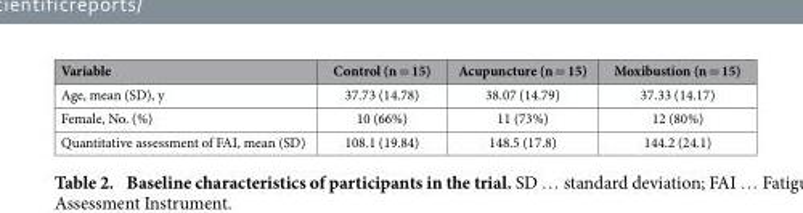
<table><thead><tr><td>Variable</td><td>Control (n = 15)</td><td>Acupuncture (n = 15)</td><td>Moxibustion (n = 15)</td></tr></thead><tbody><tr><td>Age, mean (SD), y</td><td>37.73 (14.78)</td><td>38.07 (14.79)</td><td>37.33 (14.17)</td></tr><tr><td>Female, No. (%)</td><td>10 (66%)</td><td>11 (73%)</td><td>12 (80%)</td></tr><tr><td>Quantitative assessment of FAI, mean (SD)</td><td>108.1 (19.84)</td><td>148.5 (17.8)</td><td>144.2 (24.1)</td></tr></tbody></table>